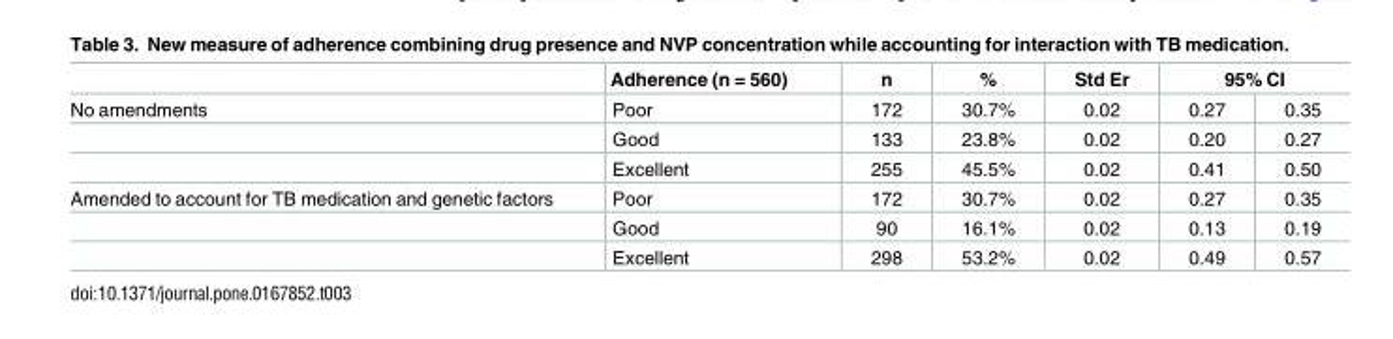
<table><thead><tr><td rowspan="2">No amendments</td><td rowspan="2">Adherence (n = 560) Poor</td><td rowspan="2">n 172</td><td rowspan="2">% 30.7%</td><td rowspan="2">Std Er 0.02</td><td colspan="2">95% CI</td></tr><tr><td>0.27</td><td>0.35</td></tr></thead><tbody><tr><td></td><td>Good</td><td>133</td><td>23.8%</td><td>0.02</td><td>0.20</td><td>0.27</td></tr><tr><td></td><td>Excellent</td><td>255</td><td>45.5%</td><td>0.02</td><td>0.41</td><td>0.50</td></tr><tr><td rowspan="3">Amended to account for TB medication and genetic factors</td><td>Poor</td><td>172</td><td>30.7%</td><td>0.02</td><td>0.27</td><td>0.35</td></tr><tr><td>Good</td><td>90</td><td>16.1%</td><td>0.02</td><td>0.13</td><td>0.19</td></tr><tr><td>Excellent</td><td>298</td><td>53.2%</td><td>0.02</td><td>0.49</td><td>0.57</td></tr></tbody></table>